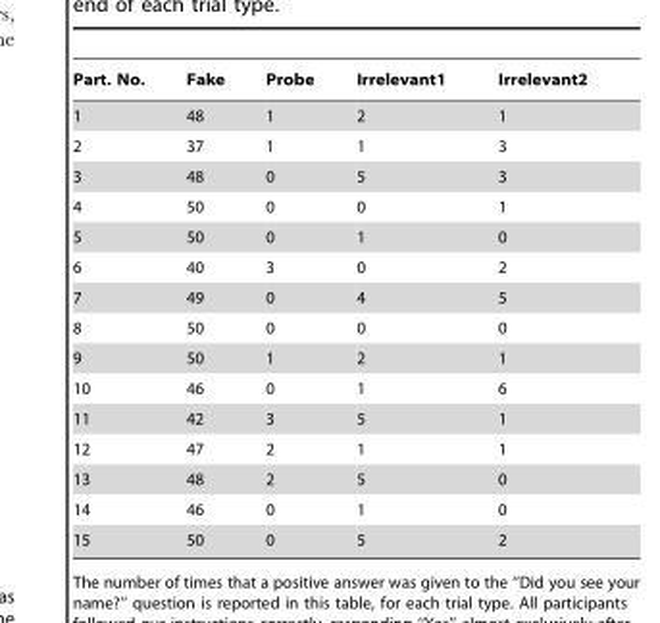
<table><thead><tr><td>Part. No.</td><td>Fake</td><td>Probe</td><td>Irrelevant1</td><td>Irrelevant2</td></tr></thead><tbody><tr><td>1</td><td>48</td><td>1</td><td>2</td><td>1</td></tr><tr><td>2</td><td>37</td><td>1</td><td>1</td><td>3</td></tr><tr><td>3</td><td>48</td><td>0</td><td>5</td><td>3</td></tr><tr><td>4</td><td>50</td><td>0</td><td>0</td><td>1</td></tr><tr><td>5</td><td>50</td><td>0</td><td>1</td><td>0</td></tr><tr><td>6</td><td>40</td><td>3</td><td>0</td><td>2</td></tr><tr><td>7</td><td>49</td><td>0</td><td>4</td><td>5</td></tr><tr><td>8</td><td>50</td><td>0</td><td>0</td><td>0</td></tr><tr><td>9</td><td>50</td><td>1</td><td>2</td><td>1</td></tr><tr><td>10</td><td>46</td><td>0</td><td>1</td><td>6</td></tr><tr><td>11</td><td>42</td><td>3</td><td>5</td><td>1</td></tr><tr><td>12</td><td>47</td><td>2</td><td>1</td><td>1</td></tr><tr><td>13</td><td>48</td><td>2</td><td>5</td><td>0</td></tr><tr><td>14</td><td>46</td><td>0</td><td>1</td><td>0</td></tr><tr><td>15</td><td>50</td><td>0</td><td>5</td><td>2</td></tr></tbody></table>